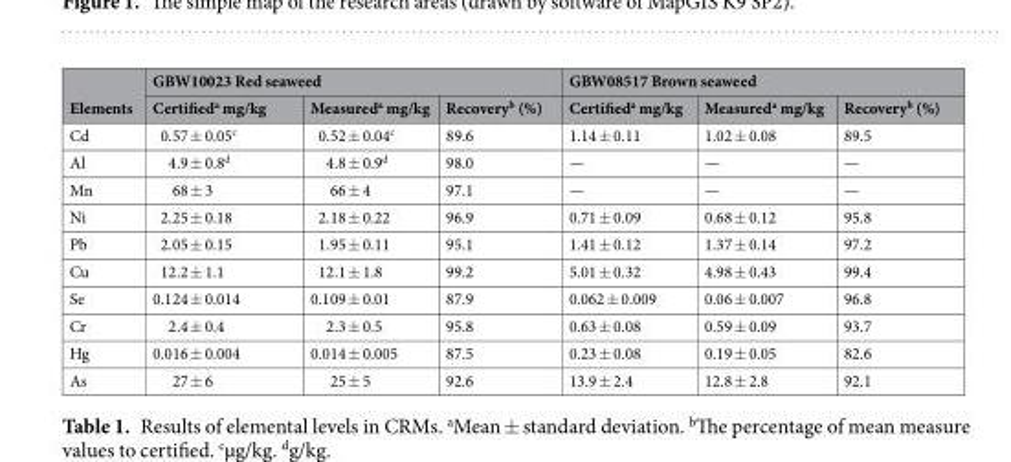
<table><thead><tr><td rowspan="2">Elements</td><td colspan="3">GBW10023 Red seaweed</td><td colspan="3">GBW08517 Brown seaweed</td></tr><tr><td>Certified<sup>a</sup> mg/kg</td><td>Measured<sup>a</sup> mg/kg</td><td>Recovery<sup>b</sup> (%)</td><td>Certified<sup>a</sup> mg/kg</td><td>Measured<sup>a</sup> mg/kg</td><td>Recovery<sup>b</sup> (%)</td></tr></thead><tbody><tr><td>Cd</td><td>0.57 ± 0.05<sup>c</sup></td><td>0.52 ± 0.04<sup>c</sup></td><td>89.6</td><td>1.14 ± 0.11</td><td>1.02 ± 0.08</td><td>89.5</td></tr><tr><td>Al</td><td>4.9 ± 0.8<sup>d</sup></td><td>4.8 ± 0.9<sup>d</sup></td><td>98.0</td><td>—</td><td>—</td><td>—</td></tr><tr><td>Mn</td><td>68 ± 3</td><td>66 ± 4</td><td>97.1</td><td>—</td><td>—</td><td>—</td></tr><tr><td>Ni</td><td>2.25 ± 0.18</td><td>2.18 ± 0.22</td><td>96.9</td><td>0.71 ± 0.09</td><td>0.68 ± 0.12</td><td>95.8</td></tr><tr><td>Pb</td><td>2.05 ± 0.15</td><td>1.95 ± 0.11</td><td>95.1</td><td>1.41 ± 0.12</td><td>1.37 ± 0.14</td><td>97.2</td></tr><tr><td>Cu</td><td>12.2 ± 1.1</td><td>12.1 ± 1.8</td><td>99.2</td><td>5.01 ± 0.32</td><td>4.98 ± 0.43</td><td>99.4</td></tr><tr><td>Se</td><td>0.124 ± 0.014</td><td>0.109 ± 0.01</td><td>87.9</td><td>0.062 ± 0.009</td><td>0.06 ± 0.007</td><td>96.8</td></tr><tr><td>Cr</td><td>2.4 ± 0.4</td><td>2.3 ± 0.5</td><td>95.8</td><td>0.63 ± 0.08</td><td>0.59 ± 0.09</td><td>93.7</td></tr><tr><td>Hg</td><td>0.016 ± 0.004</td><td>0.014 ± 0.005</td><td>87.5</td><td>0.23 ± 0.08</td><td>0.19 ± 0.05</td><td>82.6</td></tr><tr><td>As</td><td>27 ± 6</td><td>25 ± 5</td><td>92.6</td><td>13.9 ± 2.4</td><td>12.8 ± 2.8</td><td>92.1</td></tr></tbody></table>